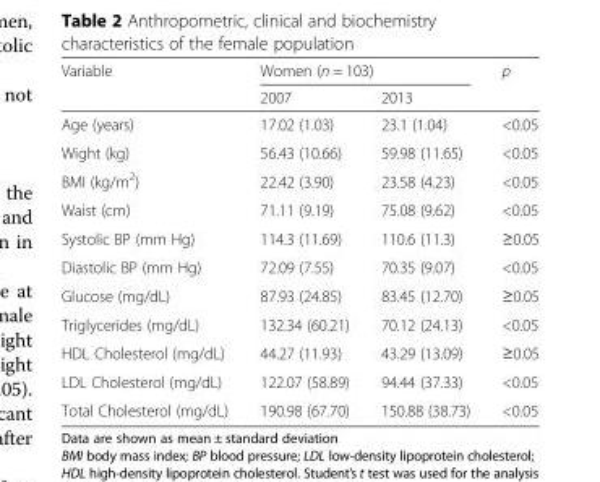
<table><thead><tr><td rowspan="2">Variable</td><td colspan="2">Women (n = 103)</td><td rowspan="2">p</td></tr><tr><td>2007</td><td>2013</td></tr></thead><tbody><tr><td>Age (years)</td><td>17.02 (1.03)</td><td>23.1 (1.04)</td><td>&lt;0.05</td></tr><tr><td>Wight (kg)</td><td>56.43 (10.66)</td><td>59.98 (11.65)</td><td>&lt;0.05</td></tr><tr><td>BMI (kg/m<sup>2</sup>)</td><td>22.42 (3.90)</td><td>23.58 (4.23)</td><td>&lt;0.05</td></tr><tr><td>Waist (cm)</td><td>71.11 (9.19)</td><td>75.08 (9.62)</td><td>&lt;0.05</td></tr><tr><td>Systolic BP (mm Hg)</td><td>114.3 (11.69)</td><td>110.6 (11.3)</td><td>≥0.05</td></tr><tr><td>Diastolic BP (mm Hg)</td><td>72.09 (7.55)</td><td>70.35 (9.07)</td><td>&lt;0.05</td></tr><tr><td>Glucose (mg/dL)</td><td>87.93 (24.85)</td><td>83.45 (12.70)</td><td>≥0.05</td></tr><tr><td>Triglycerides (mg/dL)</td><td>132.34 (60.21)</td><td>70.12 (24.13)</td><td>&lt;0.05</td></tr><tr><td>HDL Cholesterol (mg/dL)</td><td>44.27 (11.93)</td><td>43.29 (13.09)</td><td>≥0.05</td></tr><tr><td>LDL Cholesterol (mg/dL)</td><td>122.07 (58.89)</td><td>94.44 (37.33)</td><td>&lt;0.05</td></tr><tr><td>Total Cholesterol (mg/dL)</td><td>190.98 (67.70)</td><td>150.88 (38.73)</td><td>&lt;0.05</td></tr></tbody></table>